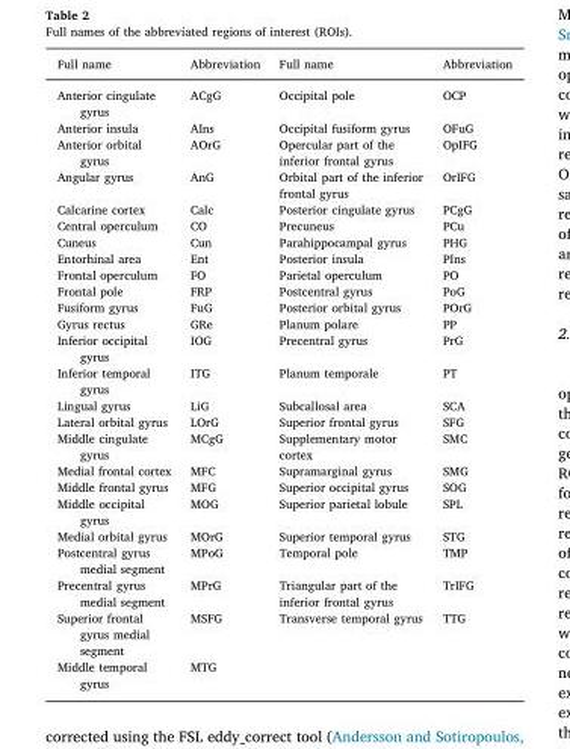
<table><thead><tr><td>Full name</td><td>Abbreviation</td><td>Full name</td><td>Abbreviation</td></tr></thead><tbody><tr><td>Anterior cingulate gyrus</td><td>ACgG</td><td>Occipital pole</td><td>OCP</td></tr><tr><td>Anterior insula</td><td>AIns</td><td>Occipital fusiform gyrus</td><td>OFuG</td></tr><tr><td>Anterior orbital gyrus</td><td>AOrG</td><td>Opercular part of the inferior frontal gyrus</td><td>OpIFG</td></tr><tr><td>Angular gyrus</td><td>AnG</td><td>Orbital part of the inferior frontal gyrus</td><td>OrIFG</td></tr><tr><td>Calcarine cortex</td><td>Calc</td><td>Posterior cingulate gyrus</td><td>PCgG</td></tr><tr><td>Central operculum</td><td>CO</td><td>Precuneus</td><td>PCu</td></tr><tr><td>Cuneus</td><td>Cun</td><td>Parahippocampal gyrus</td><td>PHG</td></tr><tr><td>Entorhinal area</td><td>Ent</td><td>Posterior insula</td><td>PIns</td></tr><tr><td>Frontal operculum</td><td>FO</td><td>Parietal operculum</td><td>PO</td></tr><tr><td>Frontal pole</td><td>FRP</td><td>Postcentral gyrus</td><td>PoG</td></tr><tr><td>Fusiform gyrus</td><td>FuG</td><td>Posterior orbital gyrus</td><td>POrG</td></tr><tr><td>Gyrus rectus</td><td>GRe</td><td>Planum polare</td><td>PP</td></tr><tr><td>Inferior occipital gyrus</td><td>IOG</td><td>Precentral gyrus</td><td>PrG</td></tr><tr><td>Inferior temporal gyrus</td><td>ITG</td><td>Planum temporale</td><td>PT</td></tr><tr><td>Lingual gyrus</td><td>LiG</td><td>Subcallosal area</td><td>SCA</td></tr><tr><td>Lateral orbital gyrus</td><td>LOrG</td><td>Superior frontal gyrus</td><td>SFG</td></tr><tr><td>Middle cingulate gyrus</td><td>MCgG</td><td>Supplementary motor cortex</td><td>SMC</td></tr><tr><td>Medial frontal cortex</td><td>MFC</td><td>Supramarginal gyrus</td><td>SMG</td></tr><tr><td>Middle frontal gyrus</td><td>MFG</td><td>Superior occipital gyrus</td><td>SOG</td></tr><tr><td>Middle occipital gyrus</td><td>MOG</td><td>Superior parietal lobule</td><td>SPL</td></tr><tr><td>Medial orbital gyrus</td><td>MOrG</td><td>Superior temporal gyrus</td><td>STG</td></tr><tr><td>Postcentral gyrus medial segment</td><td>MPoG</td><td>Temporal pole</td><td>TMP</td></tr><tr><td>Precentral gyrus medial segment</td><td>MPrG</td><td>Triangular part of the inferior frontal gyrus</td><td>TrIFG</td></tr><tr><td>Superior frontal gyrus medial segment</td><td>MSFG</td><td>Transverse temporal gyrus</td><td>TTG</td></tr><tr><td>Middle temporal gyrus</td><td>MTG</td><td></td><td></td></tr></tbody></table>